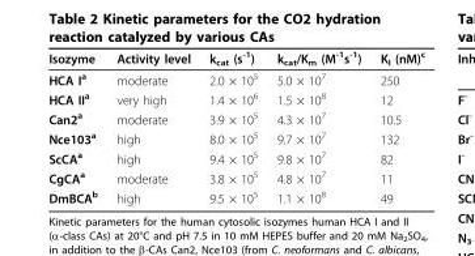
<table><thead><tr><td>Isozyme</td><td>Activity level</td><td>k<sub>cat</sub> (s<sup>-1</sup>)</td><td>k<sub>cat</sub>/K<sub>m</sub> (M<sup>-1</sup>s<sup>-1</sup>)</td><td>K<sub>I</sub> (nM)<sup>c</sup></td></tr></thead><tbody><tr><td>HCA I<sup>a</sup></td><td>moderate</td><td>2.0 × 10<sup>5</sup></td><td>5.0 × 10<sup>7</sup></td><td>250</td></tr><tr><td>HCA II<sup>a</sup></td><td>very high</td><td>1.4 × 10<sup>6</sup></td><td>1.5 × 10<sup>8</sup></td><td>12</td></tr><tr><td>Can2<sup>a</sup></td><td>moderate</td><td>3.9 × 10<sup>5</sup></td><td>4.3 × 10<sup>7</sup></td><td>10.5</td></tr><tr><td>Nce103<sup>a</sup></td><td>high</td><td>8.0 × 10<sup>5</sup></td><td>9.7 × 10<sup>7</sup></td><td>132</td></tr><tr><td>ScCA<sup>a</sup></td><td>high</td><td>9.4 × 10<sup>5</sup></td><td>9.8 × 10<sup>7</sup></td><td>82</td></tr><tr><td>CgCA<sup>a</sup></td><td>moderate</td><td>3.8 × 10<sup>5</sup></td><td>4.8 × 10<sup>7</sup></td><td>11</td></tr><tr><td>DmBCA<sup>b</sup></td><td>high</td><td>9.5 × 10<sup>5</sup></td><td>1.1 × 10<sup>8</sup></td><td>49</td></tr></tbody></table>